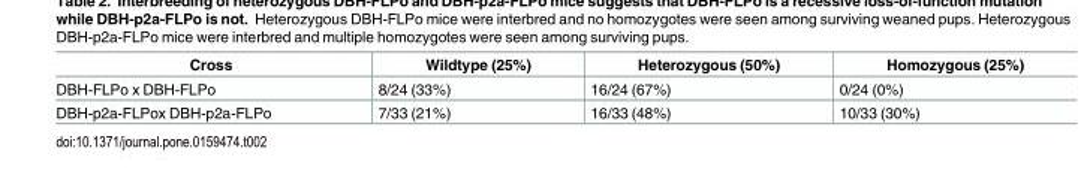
<table><thead><tr><td>Cross</td><td>Wildtype (25%)</td><td>Heterozygous (50%)</td><td>Homozygous (25%)</td></tr></thead><tbody><tr><td>DBH-FLPo x DBH-FLPo</td><td>8/24 (33%)</td><td>16/24 (67%)</td><td>0/24 (0%)</td></tr><tr><td>DBH-p2a-FLPox DBH-p2a-FLPo</td><td>7/33 (21%)</td><td>16/33 (48%)</td><td>10/33 (30%)</td></tr></tbody></table>